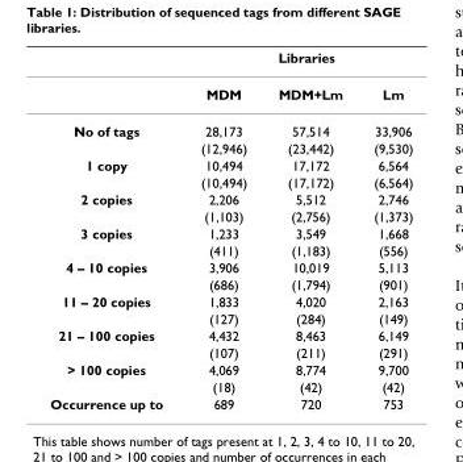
<table><thead><tr><td rowspan="2"></td><td colspan="3">Libraries</td></tr><tr><td>MDM</td><td>MDM+Lm</td><td>Lm</td></tr></thead><tbody><tr><td rowspan="2">No of tags</td><td>28,173</td><td>57,514</td><td>33,906</td></tr><tr><td>(12,946)</td><td>(23,442)</td><td>(9,530)</td></tr><tr><td rowspan="2">1 copy</td><td>10,494</td><td>17,172</td><td>6,564</td></tr><tr><td>(10,494)</td><td>(17,172)</td><td>(6,564)</td></tr><tr><td rowspan="2">2 copies</td><td>2,206</td><td>5,512</td><td>2,746</td></tr><tr><td>(1,103)</td><td>(2,756)</td><td>(1,373)</td></tr><tr><td rowspan="2">3 copies</td><td>1,233</td><td>3,549</td><td>1,668</td></tr><tr><td>(411)</td><td>(1,183)</td><td>(556)</td></tr><tr><td rowspan="2">4 – 10 copies</td><td>3,906</td><td>10,019</td><td>5,113</td></tr><tr><td>(686)</td><td>(1,794)</td><td>(901)</td></tr><tr><td rowspan="2">11 – 20 copies</td><td>1,833</td><td>4,020</td><td>2,163</td></tr><tr><td>(127)</td><td>(284)</td><td>(149)</td></tr><tr><td rowspan="2">21 – 100 copies</td><td>4,432</td><td>8,463</td><td>6,149</td></tr><tr><td>(107)</td><td>(211)</td><td>(291)</td></tr><tr><td rowspan="2">&gt; 100 copies</td><td>4,069</td><td>8,774</td><td>9,700</td></tr><tr><td>(18)</td><td>(42)</td><td>(42)</td></tr><tr><td>Occurrence up to</td><td>689</td><td>720</td><td>753</td></tr></tbody></table>